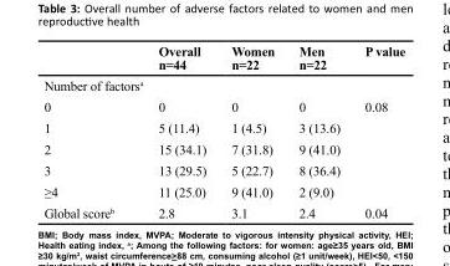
<table><thead><tr><td></td><td>Overall n=44</td><td>Women n=22</td><td>Men n=22</td><td>P value</td></tr></thead><tbody><tr><td colspan="5">Number of factors<sup>a</sup></td></tr><tr><td>0</td><td>0</td><td>0</td><td>0</td><td>0.08</td></tr><tr><td>1</td><td>5 (11.4)</td><td>1 (4.5)</td><td>3 (13.6)</td><td></td></tr><tr><td>2</td><td>15 (34.1)</td><td>7 (31.8)</td><td>9 (41.0)</td><td></td></tr><tr><td>3</td><td>13 (29.5)</td><td>5 (22.7)</td><td>8 (36.4)</td><td></td></tr><tr><td>≥4</td><td>11 (25.0)</td><td>9 (41.0)</td><td>2 (9.0)</td><td></td></tr><tr><td>Global score<sup>b</sup></td><td>2.8</td><td>3.1</td><td>2.4</td><td>0.04</td></tr></tbody></table>